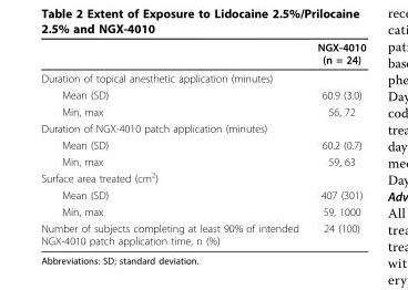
<table><thead><tr><td></td><td>NGX-4010 (n = 24)</td></tr></thead><tbody><tr><td colspan="2">Duration of topical anesthetic application (minutes)</td></tr><tr><td>Mean (SD)</td><td>60.9 (3.0)</td></tr><tr><td>Min, max</td><td>56, 72</td></tr><tr><td colspan="2">Duration of NGX-4010 patch application (minutes)</td></tr><tr><td>Mean (SD)</td><td>60.2 (0.7)</td></tr><tr><td>Min, max</td><td>59, 63</td></tr><tr><td colspan="2">Surface area treated (cm<sup>2</sup>)</td></tr><tr><td>Mean (SD)</td><td>407 (301)</td></tr><tr><td>Min, max</td><td>59, 1000</td></tr><tr><td>Number of subjects completing at least 90% of intended NGX-4010 patch application time, n (%)</td><td>24 (100)</td></tr></tbody></table>